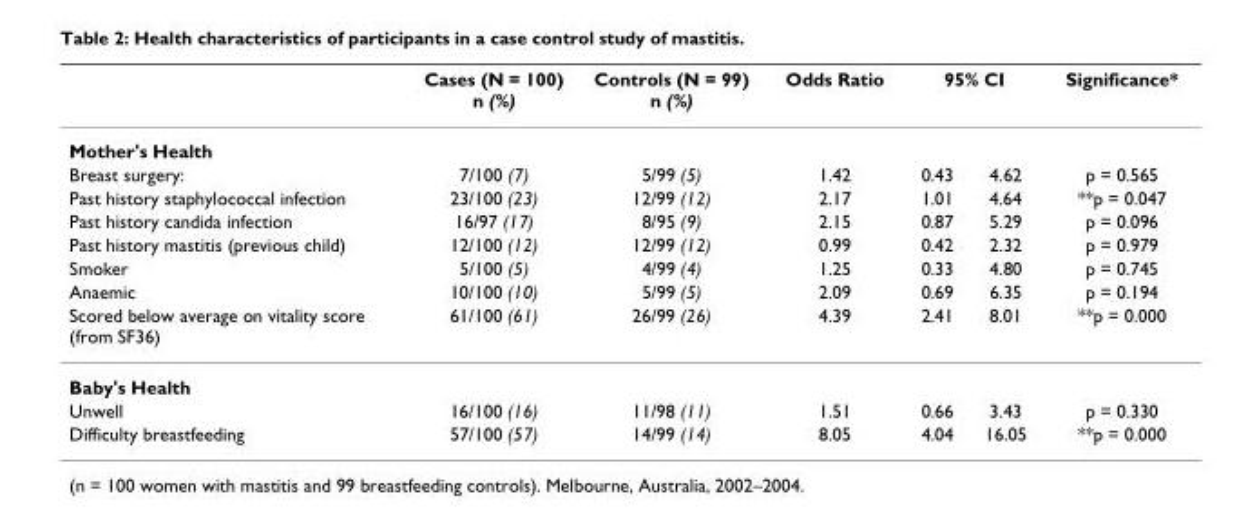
<table><thead><tr><td rowspan="2">Mother&#x27;s Health</td><td rowspan="2">Cases (N = 100) n (%)</td><td rowspan="2">Controls (N = 99) n (%)</td><td rowspan="2">Odds Ratio</td><td colspan="2">95% CI</td><td rowspan="2">Significance*</td></tr><tr><td></td><td></td></tr></thead><tbody><tr><td>Breast surgery:</td><td>7/100 (7)</td><td>5/99 (5)</td><td>1.42</td><td>0.43</td><td>4.62</td><td>p = 0.565</td></tr><tr><td>Past history staphylococcal infection</td><td>23/100 (23)</td><td>12/99 (12)</td><td>2.17</td><td>1.01</td><td>4.64</td><td>**p = 0.047</td></tr><tr><td>Past history candida infection</td><td>16/97 (17)</td><td>8/95 (9)</td><td>2.15</td><td>0.87</td><td>5.29</td><td>p = 0.096</td></tr><tr><td>Past history mastitis (previous child)</td><td>12/100 (12)</td><td>12/99 (12)</td><td>0.99</td><td>0.42</td><td>2.32</td><td>p = 0.979</td></tr><tr><td>Smoker</td><td>5/100 (5)</td><td>4/99 (4)</td><td>1.25</td><td>0.33</td><td>4.80</td><td>p = 0.745</td></tr><tr><td>Anaemic</td><td>10/100 (10)</td><td>5/99 (5)</td><td>2.09</td><td>0.69</td><td>6.35</td><td>p = 0.194</td></tr><tr><td>Scored below average on vitality score (from SF36)</td><td>61/100 (61)</td><td>26/99 (26)</td><td>4.39</td><td>2.41</td><td>8.01</td><td>**p = 0.000</td></tr><tr><td colspan="7">Baby&#x27;s Health</td></tr><tr><td>Unwell</td><td>16/100 (16)</td><td>11/98 (11)</td><td>1.51</td><td>0.66</td><td>3.43</td><td>p = 0.330</td></tr><tr><td>Difficulty breastfeeding</td><td>57/100 (57)</td><td>14/99 (14)</td><td>8.05</td><td>4.04</td><td>16.05</td><td>**p = 0.000</td></tr></tbody></table>